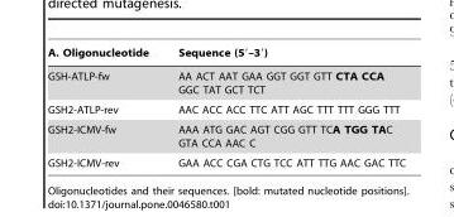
<table><thead><tr><td>A. Oligonucleotide</td><td>Sequence (5′–3′)</td></tr></thead><tbody><tr><td>GSH-ATLP-fw</td><td>AA ACT AAT GAA GGT GGT GTT CTA CCA GGC TAT GCT TCT</td></tr><tr><td>GSH2-ATLP-rev</td><td>AAC ACC ACC TTC ATT AGC TTT TTT GGG TTT</td></tr><tr><td>GSH2-ICMV-fw</td><td>AAA ATG GAC AGT CGG GTT TCA TGG TAC GTA CCA AAC C</td></tr><tr><td>GSH2-ICMV-rev</td><td>GAA ACC CGA CTG TCC ATT TTG AAC GAC TTC</td></tr></tbody></table>